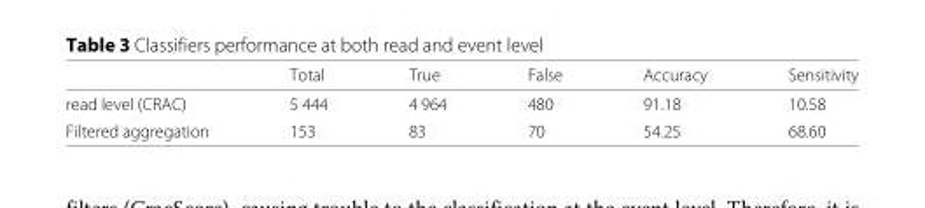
<table><thead><tr><td></td><td>Total</td><td>True</td><td>False</td><td>Accuracy</td><td>Sensitivity</td></tr></thead><tbody><tr><td>read level (CRAC)</td><td>5 444</td><td>4 964</td><td>480</td><td>91.18</td><td>10.58</td></tr><tr><td>Filtered aggregation</td><td>153</td><td>83</td><td>70</td><td>54.25</td><td>68.60</td></tr></tbody></table>